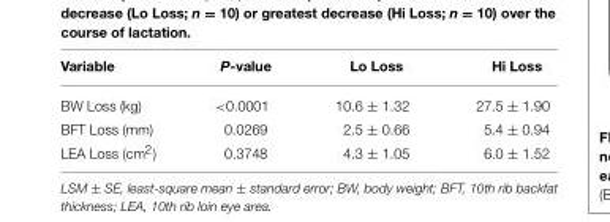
<table><thead><tr><td>Variable</td><td>P-value</td><td>Lo Loss</td><td>Hi Loss</td></tr></thead><tbody><tr><td>BW Loss (kg)</td><td>&lt;0.0001</td><td>10.6 ± 1.32</td><td>27.5 ± 1.90</td></tr><tr><td>BFT Loss (mm)</td><td>0.0269</td><td>2.5 ± 0.66</td><td>5.4 ± 0.94</td></tr><tr><td>LEA Loss (cm<sup>2</sup>)</td><td>0.3748</td><td>4.3 ± 1.05</td><td>6.0 ± 1.52</td></tr></tbody></table>